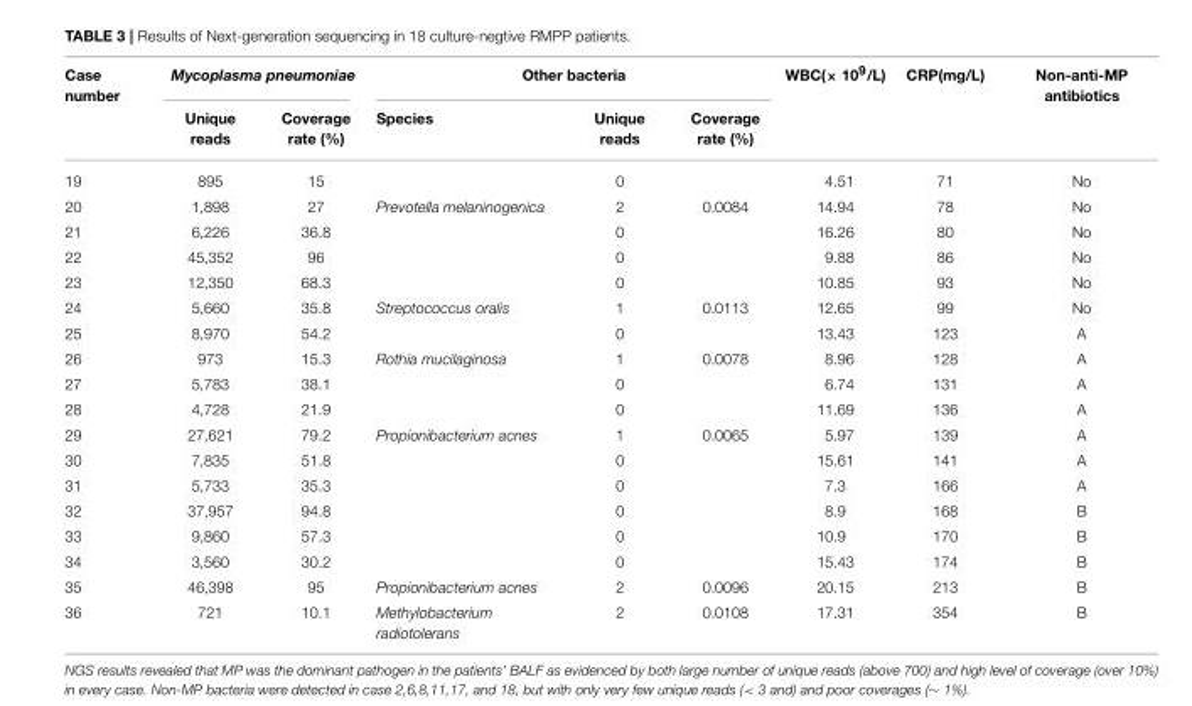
<table><thead><tr><td rowspan="2">Case number</td><td colspan="2">Mycoplasma pneumoniae</td><td colspan="3">Other bacteria</td><td rowspan="2">WBC(× 10<sup>9</sup>/L)</td><td rowspan="2">CRP(mg/L)</td><td rowspan="2">Non-anti-MP antibiotics</td></tr><tr><td>Unique reads</td><td>Coverage rate (%)</td><td>Species</td><td>Unique reads</td><td>Coverage rate (%)</td></tr></thead><tbody><tr><td>19</td><td>895</td><td>15</td><td></td><td>0</td><td></td><td>4.51</td><td>71</td><td>No</td></tr><tr><td>20</td><td>1,898</td><td>27</td><td>Prevotella melaninogenica</td><td>2</td><td>0.0084</td><td>14.94</td><td>78</td><td>No</td></tr><tr><td>21</td><td>6,226</td><td>36.8</td><td></td><td>0</td><td></td><td>16.26</td><td>80</td><td>No</td></tr><tr><td>22</td><td>45,352</td><td>96</td><td></td><td>0</td><td></td><td>9.88</td><td>86</td><td>No</td></tr><tr><td>23</td><td>12,350</td><td>68.3</td><td></td><td>0</td><td></td><td>10.85</td><td>93</td><td>No</td></tr><tr><td>24</td><td>5,660</td><td>35.8</td><td>Streptococcus oralis</td><td>1</td><td>0.0113</td><td>12.65</td><td>99</td><td>No</td></tr><tr><td>25</td><td>8,970</td><td>54.2</td><td></td><td>0</td><td></td><td>13.43</td><td>123</td><td>A</td></tr><tr><td>26</td><td>973</td><td>15.3</td><td>Rothia mucilaginosa</td><td>1</td><td>0.0078</td><td>8.96</td><td>128</td><td>A</td></tr><tr><td>27</td><td>5,783</td><td>38.1</td><td></td><td>0</td><td></td><td>6.74</td><td>131</td><td>A</td></tr><tr><td>28</td><td>4,728</td><td>21.9</td><td></td><td>0</td><td></td><td>11.69</td><td>136</td><td>A</td></tr><tr><td>29</td><td>27,621</td><td>79.2</td><td>Propionibacterium acnes</td><td>1</td><td>0.0065</td><td>5.97</td><td>139</td><td>A</td></tr><tr><td>30</td><td>7,835</td><td>51.8</td><td></td><td>0</td><td></td><td>15.61</td><td>141</td><td>A</td></tr><tr><td>31</td><td>5,733</td><td>35.3</td><td></td><td>0</td><td></td><td>7.3</td><td>166</td><td>A</td></tr><tr><td>32</td><td>37,957</td><td>94.8</td><td></td><td>0</td><td></td><td>8.9</td><td>168</td><td>B</td></tr><tr><td>33</td><td>9,860</td><td>57.3</td><td></td><td>0</td><td></td><td>10.9</td><td>170</td><td>B</td></tr><tr><td>34</td><td>3,560</td><td>30.2</td><td></td><td>0</td><td></td><td>15.43</td><td>174</td><td>B</td></tr><tr><td>35</td><td>46,398</td><td>95</td><td>Propionibacterium acnes</td><td>2</td><td>0.0096</td><td>20.15</td><td>213</td><td>B</td></tr><tr><td>36</td><td>721</td><td>10.1</td><td>Methylobacterium radiotolerans</td><td>2</td><td>0.0108</td><td>17.31</td><td>354</td><td>B</td></tr></tbody></table>